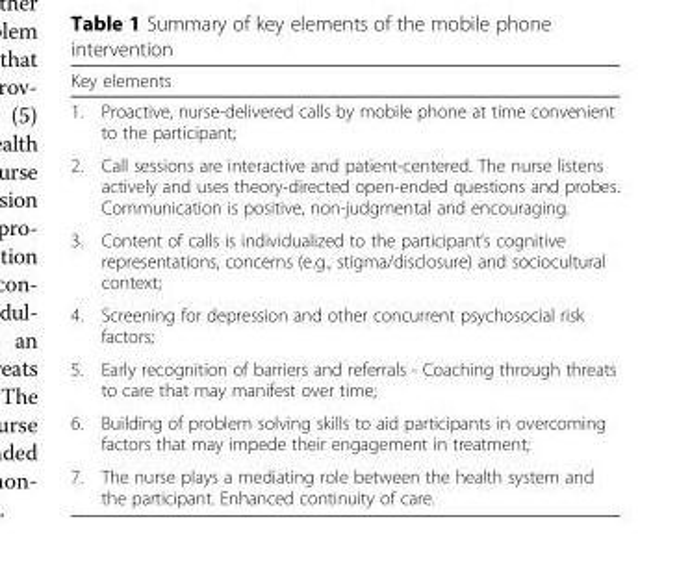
<table><thead><tr><td colspan="2">Key elements</td></tr><tr><td>1.</td><td>Proactive, nurse-delivered calls by mobile phone at time convenient to the participant;</td></tr></thead><tbody><tr><td>2.</td><td>Call sessions are interactive and patient-centered. The nurse listens actively and uses theory-directed open-ended questions and probes. Communication is positive, non-judgmental and encouraging.</td></tr><tr><td>3.</td><td>Content of calls is individualized to the participant’s cognitive representations, concerns (e.g., stigma/disclosure) and sociocultural context;</td></tr><tr><td>4.</td><td>Screening for depression and other concurrent psychosocial risk factors;</td></tr><tr><td>5.</td><td>Early recognition of barriers and referrals - Coaching through threats to care that may manifest over time;</td></tr><tr><td>6.</td><td>Building of problem solving skills to aid participants in overcoming factors that may impede their engagement in treatment;</td></tr><tr><td>7.</td><td>The nurse plays a mediating role between the health system and the participant. Enhanced continuity of care.</td></tr></tbody></table>